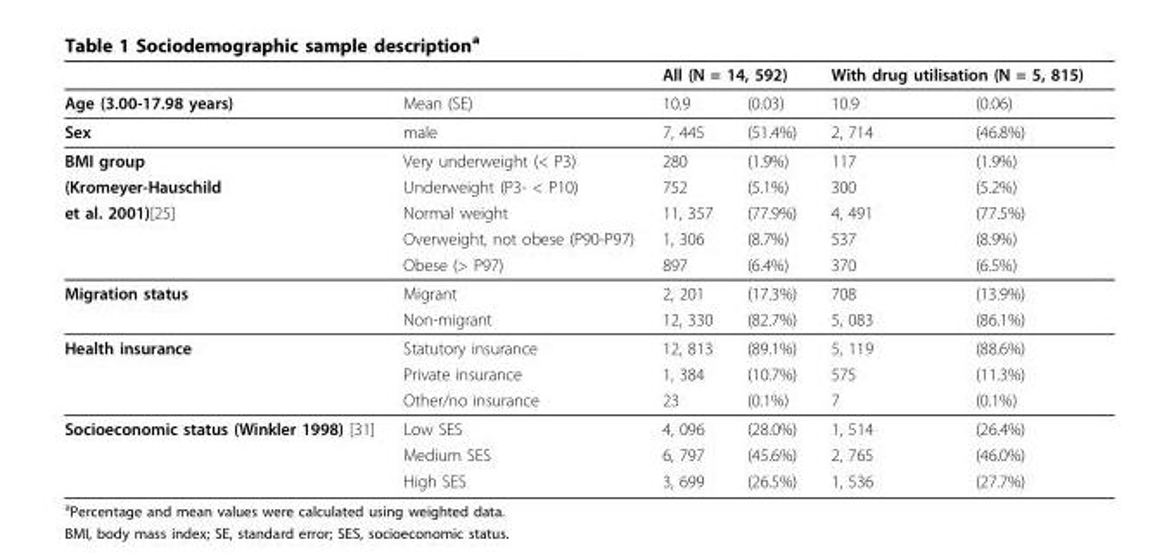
<table><thead><tr><td rowspan="2">Age (3.00-17.98 years)</td><td rowspan="2">Mean (SE)</td><td colspan="2">All (N = 14, 592)</td><td colspan="2">With drug utilisation (N = 5, 815)</td></tr><tr><td>10.9</td><td>(0.03)</td><td>10.9</td><td>(0.06)</td></tr></thead><tbody><tr><td>Sex</td><td>male</td><td>7, 445</td><td>(51.4%)</td><td>2, 714</td><td>(46.8%)</td></tr><tr><td>BMI group</td><td>Very underweight (&lt; P3)</td><td>280</td><td>(1.9%)</td><td>117</td><td>(1.9%)</td></tr><tr><td>(Kromeyer-Hauschild</td><td>Underweight (P3- &lt; P10)</td><td>752</td><td>(5.1%)</td><td>300</td><td>(5.2%)</td></tr><tr><td rowspan="3">et al. 2001)[25]</td><td>Normal weight</td><td>11, 357</td><td>(77.9%)</td><td>4, 491</td><td>(77.5%)</td></tr><tr><td>Overweight, not obese (P90-P97)</td><td>1, 306</td><td>(8.7%)</td><td>537</td><td>(8.9%)</td></tr><tr><td>Obese (&gt; P97)</td><td>897</td><td>(6.4%)</td><td>370</td><td>(6.5%)</td></tr><tr><td rowspan="2">Migration status</td><td>Migrant</td><td>2, 201</td><td>(17.3%)</td><td>708</td><td>(13.9%)</td></tr><tr><td>Non-migrant</td><td>12, 330</td><td>(82.7%)</td><td>5, 083</td><td>(86.1%)</td></tr><tr><td rowspan="3">Health insurance</td><td>Statutory insurance</td><td>12, 813</td><td>(89.1%)</td><td>5, 119</td><td>(88.6%)</td></tr><tr><td>Private insurance</td><td>1, 384</td><td>(10.7%)</td><td>575</td><td>(11.3%)</td></tr><tr><td>Other/no insurance</td><td>23</td><td>(0.1%)</td><td>7</td><td>(0.1%)</td></tr><tr><td rowspan="3">Socioeconomic status (Winkler 1998) [31]</td><td>Low SES</td><td>4, 096</td><td>(28.0%)</td><td>1, 514</td><td>(26.4%)</td></tr><tr><td>Medium SES</td><td>6, 797</td><td>(45.6%)</td><td>2, 765</td><td>(46.0%)</td></tr><tr><td>High SES</td><td>3, 699</td><td>(26.5%)</td><td>1, 536</td><td>(27.7%)</td></tr></tbody></table>